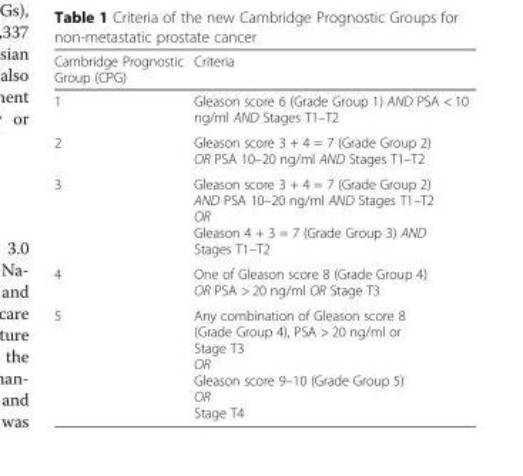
<table><thead><tr><td>Cambridge Prognostic Group (CPG)</td><td>Criteria</td></tr></thead><tbody><tr><td>1</td><td>Gleason score 6 (Grade Group 1) AND PSA &lt; 10 ng/ml AND Stages T1–T2</td></tr><tr><td>2</td><td>Gleason score 3 + 4 = 7 (Grade Group 2) OR PSA 10–20 ng/ml AND Stages T1–T2</td></tr><tr><td>3</td><td>Gleason score 3 + 4 = 7 (Grade Group 2) AND PSA 10–20 ng/ml AND Stages T1–T2 OR Gleason 4 + 3 = 7 (Grade Group 3) AND Stages T1–T2</td></tr><tr><td>4</td><td>One of Gleason score 8 (Grade Group 4) OR PSA &gt; 20 ng/ml OR Stage T3</td></tr><tr><td>5</td><td>Any combination of Gleason score 8 (Grade Group 4), PSA &gt; 20 ng/ml or Stage T3 OR Gleason score 9–10 (Grade Group 5) OR Stage T4</td></tr></tbody></table>